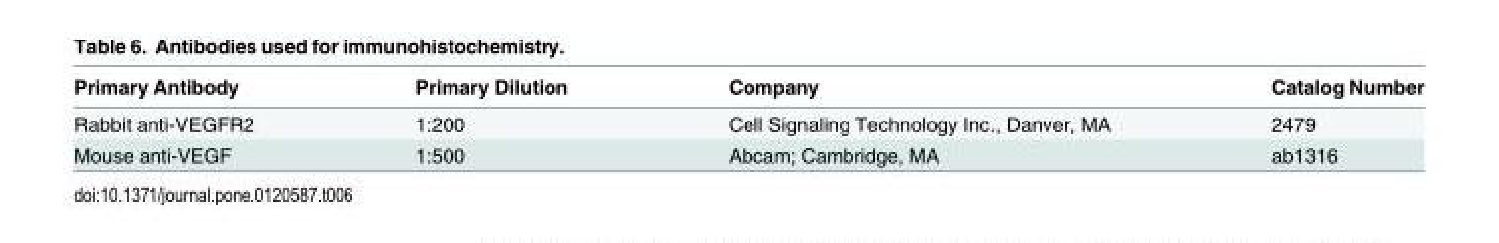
<table><thead><tr><td>Primary Antibody</td><td>Primary Dilution</td><td>Company</td><td>Catalog Number</td></tr></thead><tbody><tr><td>Rabbit anti-VEGFR2</td><td>1:200</td><td>Cell Signaling Technology Inc., Danver, MA</td><td>2479</td></tr><tr><td>Mouse anti-VEGF</td><td>1:500</td><td>Abcam; Cambridge, MA</td><td>ab1316</td></tr></tbody></table>